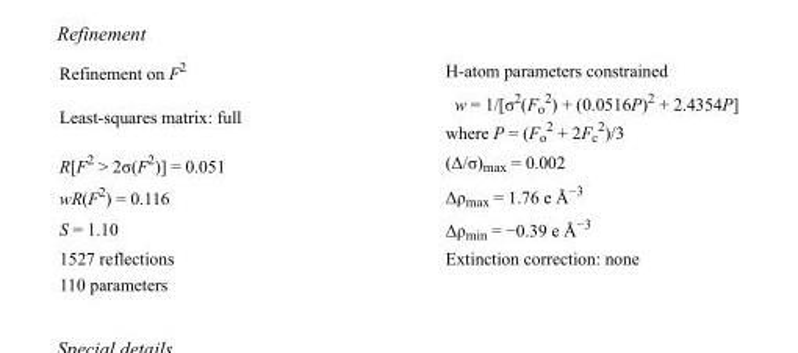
<table><tbody><tr><td>Refinement on F<sup>2</sup></td><td>H-atom parameters constrained</td></tr><tr><td>Least-squares matrix: full</td><td>w = 1/[σ<sup>2</sup>(F<sub>o</sub> <sup>2</sup>) + (0.0516P)<sup>2</sup> + 2.4354P] where P = (F<sub>o</sub> <sup>2</sup> + 2F<sub>c</sub> <sup>2</sup>)/3</td></tr><tr><td>R[F<sup>2</sup> &gt; 2σ(F<sup>2</sup>)] = 0.051</td><td>(Δ/σ)<sub>max</sub> = 0.002</td></tr><tr><td>wR(F<sup>2</sup>) = 0.116</td><td>Δρ<sub>max</sub> = 1.76 e Å<sup>−3</sup></td></tr><tr><td>S = 1.10</td><td>Δρ<sub>min</sub> = −0.39 e Å<sup>−3</sup></td></tr><tr><td>1527 reflections</td><td>Extinction correction: none</td></tr><tr><td>110 parameters</td><td></td></tr></tbody></table>